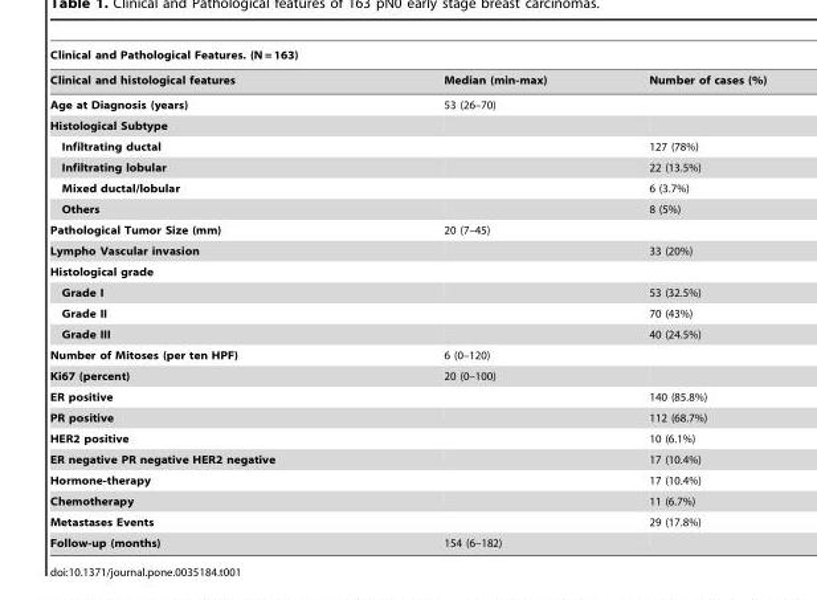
<table><thead><tr><td colspan="3">Clinical and Pathological Features. (N = 163)</td></tr><tr><td>Clinical and histological features</td><td>Median (min-max)</td><td>Number of cases (%)</td></tr></thead><tbody><tr><td>Age at Diagnosis (years)</td><td>53 (26–70)</td><td></td></tr><tr><td colspan="3">Histological Subtype</td></tr><tr><td>Infiltrating ductal</td><td></td><td>127 (78%)</td></tr><tr><td>Infiltrating lobular</td><td></td><td>22 (13.5%)</td></tr><tr><td>Mixed ductal/lobular</td><td></td><td>6 (3.7%)</td></tr><tr><td>Others</td><td></td><td>8 (5%)</td></tr><tr><td>Pathological Tumor Size (mm)</td><td>20 (7–45)</td><td></td></tr><tr><td>Lympho Vascular invasion</td><td></td><td>33 (20%)</td></tr><tr><td colspan="3">Histological grade</td></tr><tr><td>Grade I</td><td></td><td>53 (32.5%)</td></tr><tr><td>Grade II</td><td></td><td>70 (43%)</td></tr><tr><td>Grade III</td><td></td><td>40 (24.5%)</td></tr><tr><td>Number of Mitoses (per ten HPF)</td><td>6 (0–120)</td><td></td></tr><tr><td>Ki67 (percent)</td><td>20 (0–100)</td><td></td></tr><tr><td>ER positive</td><td></td><td>140 (85.8%)</td></tr><tr><td>PR positive</td><td></td><td>112 (68.7%)</td></tr><tr><td>HER2 positive</td><td></td><td>10 (6.1%)</td></tr><tr><td>ER negative PR negative HER2 negative</td><td></td><td>17 (10.4%)</td></tr><tr><td>Hormone-therapy</td><td></td><td>17 (10.4%)</td></tr><tr><td>Chemotherapy</td><td></td><td>11 (6.7%)</td></tr><tr><td>Metastases Events</td><td></td><td>29 (17.8%)</td></tr><tr><td>Follow-up (months)</td><td>154 (6–182)</td><td></td></tr></tbody></table>